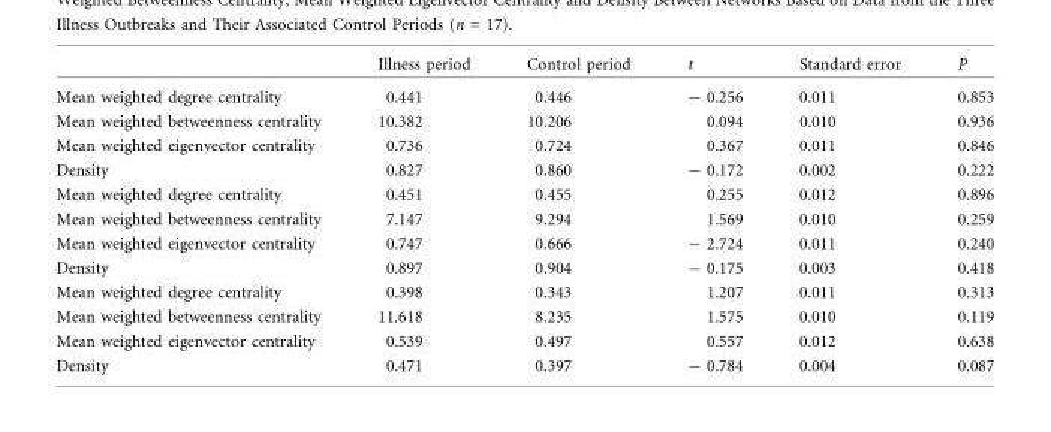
<table><thead><tr><td></td><td>Illness period</td><td>Control period</td><td>t</td><td>Standard error</td><td>P</td></tr></thead><tbody><tr><td>Mean weighted degree centrality</td><td>0.441</td><td>0.446</td><td>- 0.256</td><td>0.011</td><td>0.853</td></tr><tr><td>Mean weighted betweenness centrality</td><td>10.382</td><td>10.206</td><td>0.094</td><td>0.010</td><td>0.936</td></tr><tr><td>Mean weighted eigenvector centrality</td><td>0.736</td><td>0.724</td><td>0.367</td><td>0.011</td><td>0.846</td></tr><tr><td>Density</td><td>0.827</td><td>0.860</td><td>- 0.172</td><td>0.002</td><td>0.222</td></tr><tr><td>Mean weighted degree centrality</td><td>0.451</td><td>0.455</td><td>0.255</td><td>0.012</td><td>0.896</td></tr><tr><td>Mean weighted betweenness centrality</td><td>7.147</td><td>9.294</td><td>1.569</td><td>0.010</td><td>0.259</td></tr><tr><td>Mean weighted eigenvector centrality</td><td>0.747</td><td>0.666</td><td>- 2.724</td><td>0.011</td><td>0.240</td></tr><tr><td>Density</td><td>0.897</td><td>0.904</td><td>- 0.175</td><td>0.003</td><td>0.418</td></tr><tr><td>Mean weighted degree centrality</td><td>0.398</td><td>0.343</td><td>1.207</td><td>0.011</td><td>0.313</td></tr><tr><td>Mean weighted betweenness centrality</td><td>11.618</td><td>8.235</td><td>1.575</td><td>0.010</td><td>0.119</td></tr><tr><td>Mean weighted eigenvector centrality</td><td>0.539</td><td>0.497</td><td>0.557</td><td>0.012</td><td>0.638</td></tr><tr><td>Density</td><td>0.471</td><td>0.397</td><td>- 0.784</td><td>0.004</td><td>0.087</td></tr></tbody></table>